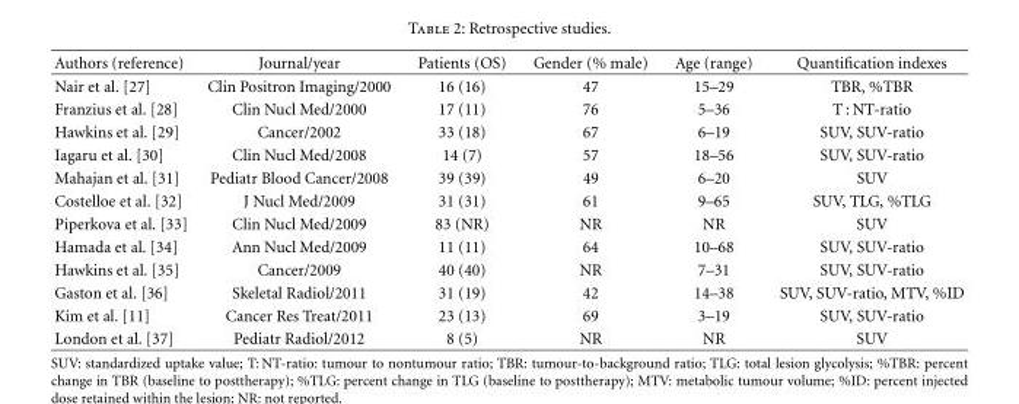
<table><thead><tr><td>Authors (reference)</td><td>Journal/year</td><td>Patients (OS)</td><td>Gender (% male)</td><td>Age (range)</td><td>Quantification indexes</td></tr></thead><tbody><tr><td>Nair et al. [27]</td><td>Clin Positron Imaging/2000</td><td>16 (16)</td><td>47</td><td>15–29</td><td>TBR, %TBR</td></tr><tr><td>Franzius et al. [28]</td><td>Clin Nucl Med/2000</td><td>17 (11)</td><td>76</td><td>5–36</td><td>T : NT-ratio</td></tr><tr><td>Hawkins et al. [29]</td><td>Cancer/2002</td><td>33 (18)</td><td>67</td><td>6–19</td><td>SUV, SUV-ratio</td></tr><tr><td>Iagaru et al. [30]</td><td>Clin Nucl Med/2008</td><td>14 (7)</td><td>57</td><td>18–56</td><td>SUV, SUV-ratio</td></tr><tr><td>Mahajan et al. [31]</td><td>Pediatr Blood Cancer/2008</td><td>39 (39)</td><td>49</td><td>6–20</td><td>SUV</td></tr><tr><td>Costelloe et al. [32]</td><td>J Nucl Med/2009</td><td>31 (31)</td><td>61</td><td>9–65</td><td>SUV, TLG, %TLG</td></tr><tr><td>Piperkova et al. [33]</td><td>Clin Nucl Med/2009</td><td>83 (NR)</td><td>NR</td><td>NR</td><td>SUV</td></tr><tr><td>Hamada et al. [34]</td><td>Ann Nucl Med/2009</td><td>11 (11)</td><td>64</td><td>10–68</td><td>SUV, SUV-ratio</td></tr><tr><td>Hawkins et al. [35]</td><td>Cancer/2009</td><td>40 (40)</td><td>NR</td><td>7–31</td><td>SUV, SUV-ratio</td></tr><tr><td>Gaston et al. [36]</td><td>Skeletal Radiol/2011</td><td>31 (19)</td><td>42</td><td>14–38</td><td>SUV, SUV-ratio, MTV, %ID</td></tr><tr><td>Kim et al. [11]</td><td>Cancer Res Treat/2011</td><td>23 (13)</td><td>69</td><td>3–19</td><td>SUV, SUV-ratio</td></tr><tr><td>London et al. [37]</td><td>Pediatr Radiol/2012</td><td>8 (5)</td><td>NR</td><td>NR</td><td>SUV</td></tr></tbody></table>